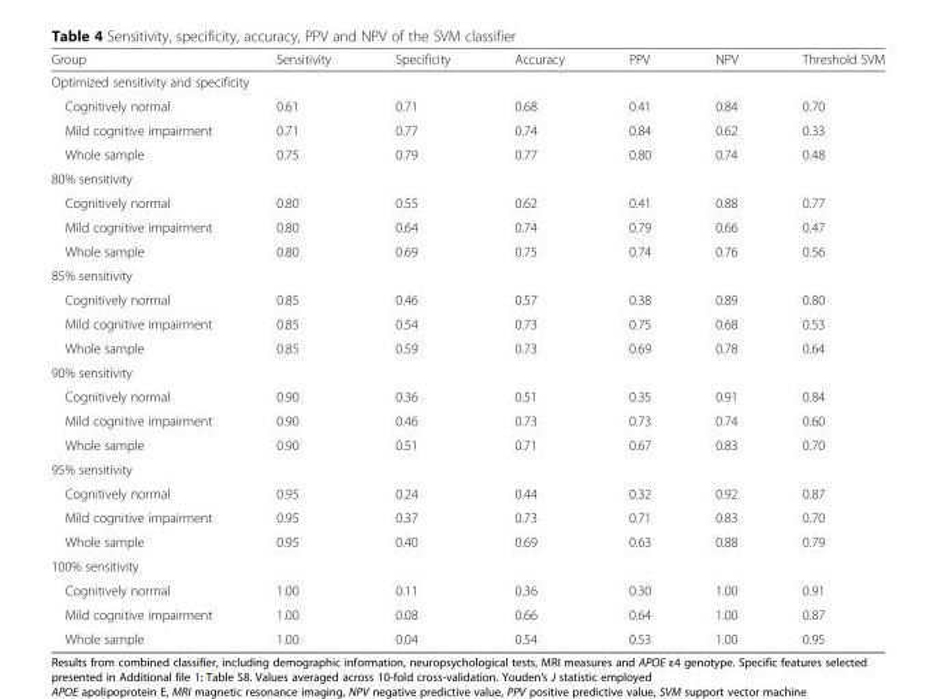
<table><thead><tr><td>Group</td><td>Sensitivity</td><td>Specificity</td><td>Accuracy</td><td>PPV</td><td>NPV</td><td>Threshold SVM</td></tr></thead><tbody><tr><td colspan="7">Optimized sensitivity and specificity</td></tr><tr><td>Cognitively normal</td><td>0.61</td><td>0.71</td><td>0.68</td><td>0.41</td><td>0.84</td><td>0.70</td></tr><tr><td>Mild cognitive impairment</td><td>0.71</td><td>0.77</td><td>0.74</td><td>0.84</td><td>0.62</td><td>0.33</td></tr><tr><td>Whole sample</td><td>0.75</td><td>0.79</td><td>0.77</td><td>0.80</td><td>0.74</td><td>0.48</td></tr><tr><td colspan="7">80% sensitivity</td></tr><tr><td>Cognitively normal</td><td>0.80</td><td>0.55</td><td>0.62</td><td>0.41</td><td>0.88</td><td>0.77</td></tr><tr><td>Mild cognitive impairment</td><td>0.80</td><td>0.64</td><td>0.74</td><td>0.79</td><td>0.66</td><td>0.47</td></tr><tr><td>Whole sample</td><td>0.80</td><td>0.69</td><td>0.75</td><td>0.74</td><td>0.76</td><td>0.56</td></tr><tr><td colspan="7">85% sensitivity</td></tr><tr><td>Cognitively normal</td><td>0.85</td><td>0.46</td><td>0.57</td><td>0.38</td><td>0.89</td><td>0.80</td></tr><tr><td>Mild cognitive impairment</td><td>0.85</td><td>0.54</td><td>0.73</td><td>0.75</td><td>0.68</td><td>0.53</td></tr><tr><td>Whole sample</td><td>0.85</td><td>0.59</td><td>0.73</td><td>0.69</td><td>0.78</td><td>0.64</td></tr><tr><td colspan="7">90% sensitivity</td></tr><tr><td>Cognitively normal</td><td>0.90</td><td>0.36</td><td>0.51</td><td>0.35</td><td>0.91</td><td>0.84</td></tr><tr><td>Mild cognitive impairment</td><td>0.90</td><td>0.46</td><td>0.73</td><td>0.73</td><td>0.74</td><td>0.60</td></tr><tr><td>Whole sample</td><td>0.90</td><td>0.51</td><td>0.71</td><td>0.67</td><td>0.83</td><td>0.70</td></tr><tr><td colspan="7">95% sensitivity</td></tr><tr><td>Cognitively normal</td><td>0.95</td><td>0.24</td><td>0.44</td><td>0.32</td><td>0.92</td><td>0.87</td></tr><tr><td>Mild cognitive impairment</td><td>0.95</td><td>0.37</td><td>0.73</td><td>0.71</td><td>0.83</td><td>0.70</td></tr><tr><td>Whole sample</td><td>0.95</td><td>0.40</td><td>0.69</td><td>0.63</td><td>0.88</td><td>0.79</td></tr><tr><td colspan="7">100% sensitivity</td></tr><tr><td>Cognitively normal</td><td>1.00</td><td>0.11</td><td>0.36</td><td>0.30</td><td>1.00</td><td>0.91</td></tr><tr><td>Mild cognitive impairment</td><td>1.00</td><td>0.08</td><td>0.66</td><td>0.64</td><td>1.00</td><td>0.87</td></tr><tr><td>Whole sample</td><td>1.00</td><td>0.04</td><td>0.54</td><td>0.53</td><td>1.00</td><td>0.95</td></tr></tbody></table>